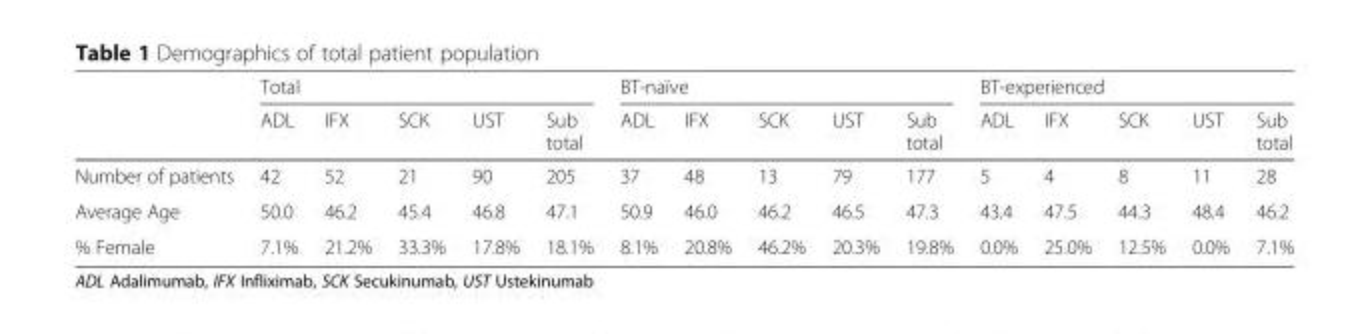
<table><thead><tr><td rowspan="2"></td><td colspan="5">Total</td><td colspan="5">BT-naïve</td><td colspan="5">BT-experienced</td></tr><tr><td>ADL</td><td>IFX</td><td>SCK</td><td>UST</td><td>Sub total</td><td>ADL</td><td>IFX</td><td>SCK</td><td>UST</td><td>Sub total</td><td>ADL</td><td>IFX</td><td>SCK</td><td>UST</td><td>Sub total</td></tr></thead><tbody><tr><td>Number of patients</td><td>42</td><td>52</td><td>21</td><td>90</td><td>205</td><td>37</td><td>48</td><td>13</td><td>79</td><td>177</td><td>5</td><td>4</td><td>8</td><td>11</td><td>28</td></tr><tr><td>Average Age</td><td>50.0</td><td>46.2</td><td>45.4</td><td>46.8</td><td>47.1</td><td>50.9</td><td>46.0</td><td>46.2</td><td>46.5</td><td>47.3</td><td>43.4</td><td>47.5</td><td>44.3</td><td>48.4</td><td>46.2</td></tr><tr><td>% Female</td><td>7.1%</td><td>21.2%</td><td>33.3%</td><td>17.8%</td><td>18.1%</td><td>8.1%</td><td>20.8%</td><td>46.2%</td><td>20.3%</td><td>19.8%</td><td>0.0%</td><td>25.0%</td><td>12.5%</td><td>0.0%</td><td>7.1%</td></tr></tbody></table>